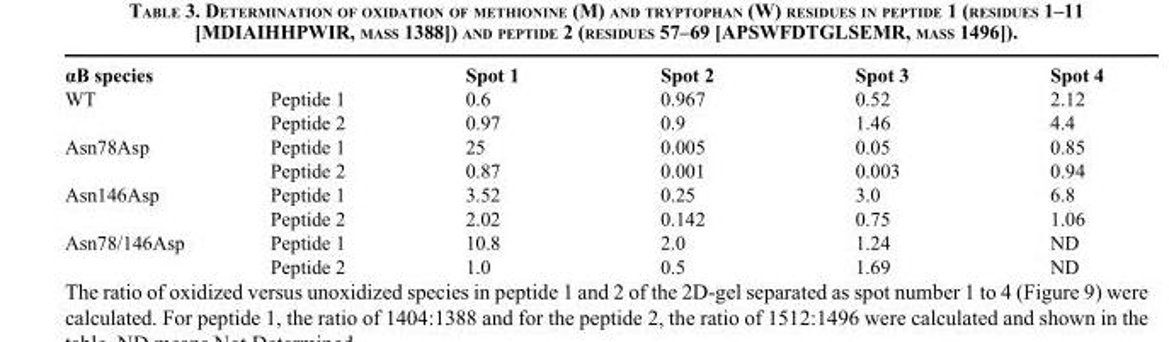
<table><thead><tr><td>αB species</td><td></td><td>Spot 1</td><td>Spot 2</td><td>Spot 3</td><td>Spot 4</td></tr></thead><tbody><tr><td rowspan="2">WT</td><td>Peptide 1</td><td>0.6</td><td>0.967</td><td>0.52</td><td>2.12</td></tr><tr><td>Peptide 2</td><td>0.97</td><td>0.9</td><td>1.46</td><td>4.4</td></tr><tr><td rowspan="2">Asn78Asp</td><td>Peptide 1</td><td>25</td><td>0.005</td><td>0.05</td><td>0.85</td></tr><tr><td>Peptide 2</td><td>0.87</td><td>0.001</td><td>0.003</td><td>0.94</td></tr><tr><td rowspan="2">Asn146Asp</td><td>Peptide 1</td><td>3.52</td><td>0.25</td><td>3.0</td><td>6.8</td></tr><tr><td>Peptide 2</td><td>2.02</td><td>0.142</td><td>0.75</td><td>1.06</td></tr><tr><td rowspan="2">Asn78/146Asp</td><td>Peptide 1</td><td>10.8</td><td>2.0</td><td>1.24</td><td>ND</td></tr><tr><td>Peptide 2</td><td>1.0</td><td>0.5</td><td>1.69</td><td>ND</td></tr></tbody></table>